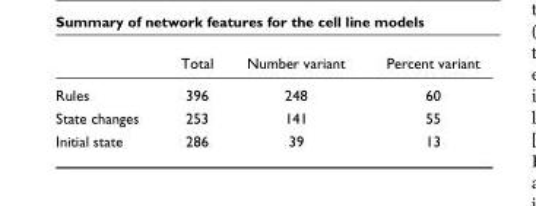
<table><thead><tr><td></td><td>Total</td><td>Number variant</td><td>Percent variant</td></tr></thead><tbody><tr><td>Rules</td><td>396</td><td>248</td><td>60</td></tr><tr><td>State changes</td><td>253</td><td>141</td><td>55</td></tr><tr><td>Initial state</td><td>286</td><td>39</td><td>13</td></tr></tbody></table>